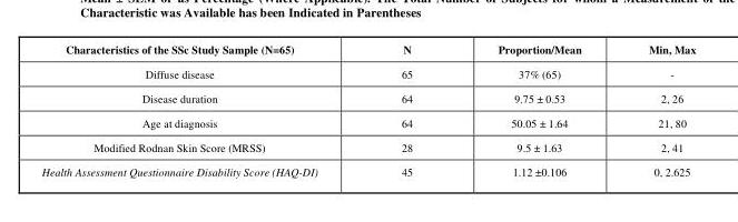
<table><thead><tr><td>Characteristics of the SSc Study Sample (N=65)</td><td>N</td><td>Proportion/Mean</td><td>Min, Max</td></tr></thead><tbody><tr><td>Diffuse disease</td><td>65</td><td>37% (65)</td><td>-</td></tr><tr><td>Disease duration</td><td>64</td><td>9.75 ± 0.53</td><td>2, 26</td></tr><tr><td>Age at diagnosis</td><td>64</td><td>50.05 ± 1.64</td><td>21, 80</td></tr><tr><td>Modified Rodnan Skin Score (MRSS)</td><td>28</td><td>9.5 ± 1.63</td><td>2, 41</td></tr><tr><td>Health Assessment Questionnaire Disability Score (HAQ-DI)</td><td>45</td><td>1.12 ±0.106</td><td>0, 2.625</td></tr></tbody></table>